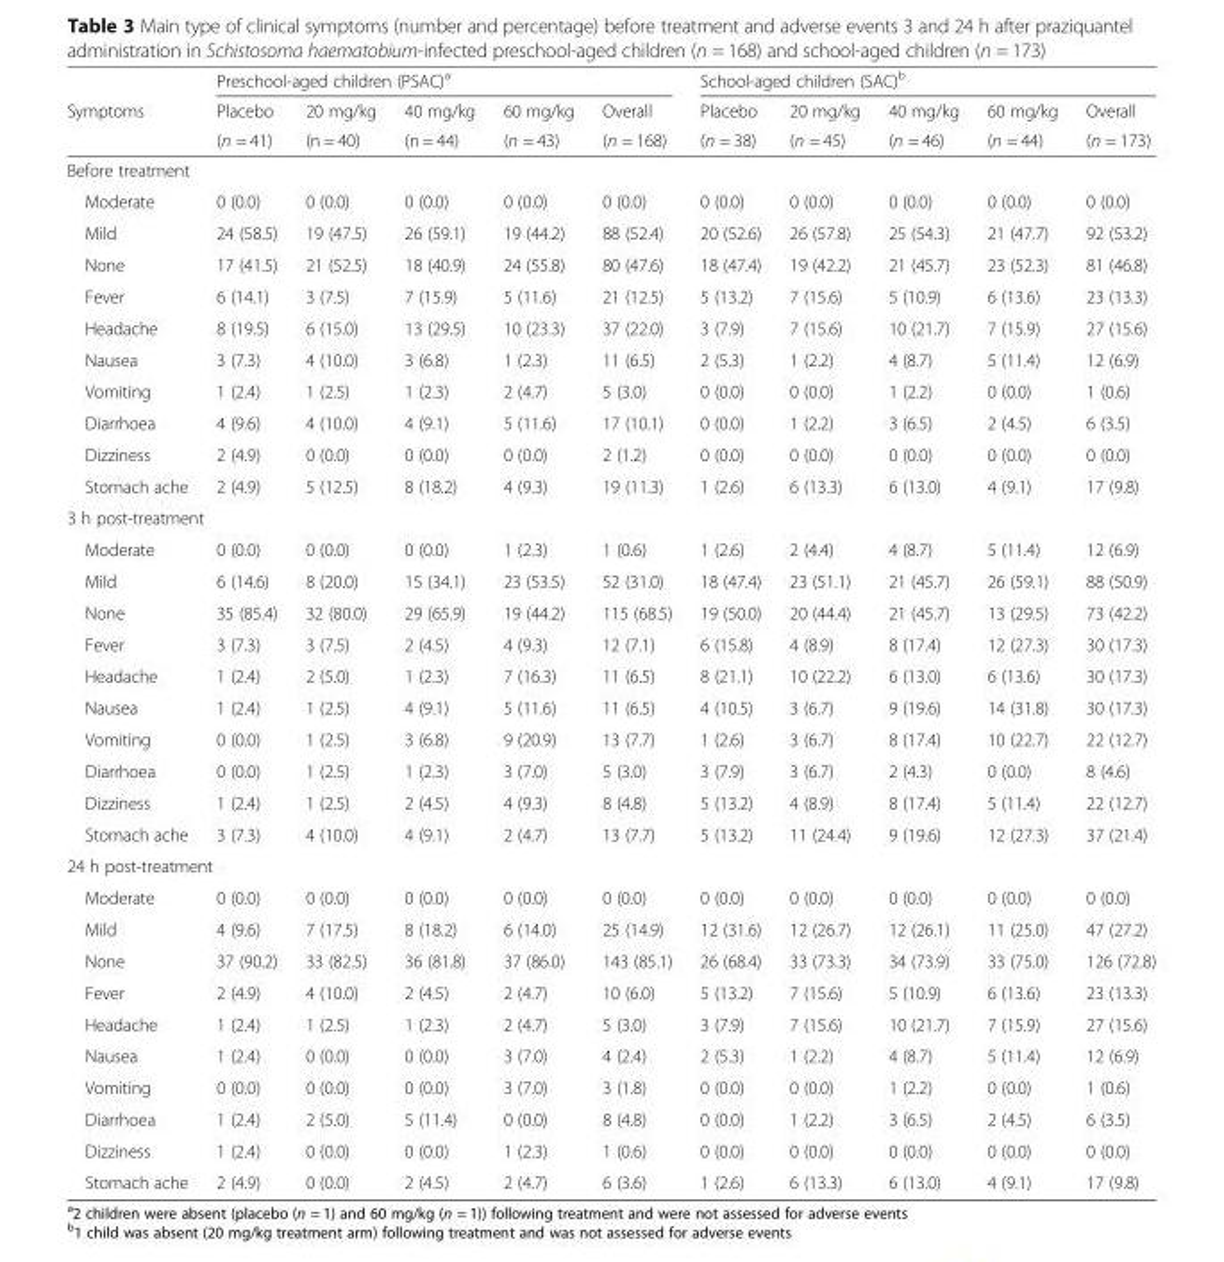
<table><thead><tr><td rowspan="3">Symptoms</td><td colspan="5">Preschool-aged children (PSAC)<sup>a</sup></td><td colspan="5">School-aged children (SAC)<sup>b</sup></td></tr><tr><td rowspan="2">Placebo (n = 41)</td><td rowspan="2">20 mg/kg (n = 40)</td><td rowspan="2">40 mg/kg (n = 44)</td><td rowspan="2">60 mg/kg (n = 43)</td><td rowspan="2">Overall (n = 168)</td><td rowspan="2">Placebo (n = 38)</td><td rowspan="2">20 mg/kg (n = 45)</td><td rowspan="2">40 mg/kg (n = 46)</td><td rowspan="2">60 mg/kg (n = 44)</td><td rowspan="2">Overall (n = 173)</td></tr><tr></tr></thead><tbody><tr><td colspan="11">Before treatment</td></tr><tr><td>Moderate</td><td>0 (0.0)</td><td>0 (0.0)</td><td>0 (0.0)</td><td>0 (0.0)</td><td>0 (0.0)</td><td>0 (0.0)</td><td>0 (0.0)</td><td>0 (0.0)</td><td>0 (0.0)</td><td>0 (0.0)</td></tr><tr><td>Mild</td><td>24 (58.5)</td><td>19 (47.5)</td><td>26 (59.1)</td><td>19 (44.2)</td><td>88 (52.4)</td><td>20 (52.6)</td><td>26 (57.8)</td><td>25 (54.3)</td><td>21 (47.7)</td><td>92 (53.2)</td></tr><tr><td>None</td><td>17 (41.5)</td><td>21 (52.5)</td><td>18 (40.9)</td><td>24 (55.8)</td><td>80 (47.6)</td><td>18 (47.4)</td><td>19 (42.2)</td><td>21 (45.7)</td><td>23 (52.3)</td><td>81 (46.8)</td></tr><tr><td>Fever</td><td>6 (14.1)</td><td>3 (7.5)</td><td>7 (15.9)</td><td>5 (11.6)</td><td>21 (12.5)</td><td>5 (13.2)</td><td>7 (15.6)</td><td>5 (10.9)</td><td>6 (13.6)</td><td>23 (13.3)</td></tr><tr><td>Headache</td><td>8 (19.5)</td><td>6 (15.0)</td><td>13 (29.5)</td><td>10 (23.3)</td><td>37 (22.0)</td><td>3 (7.9)</td><td>7 (15.6)</td><td>10 (21.7)</td><td>7 (15.9)</td><td>27 (15.6)</td></tr><tr><td>Nausea</td><td>3 (7.3)</td><td>4 (10.0)</td><td>3 (6.8)</td><td>1 (2.3)</td><td>11 (6.5)</td><td>2 (5.3)</td><td>1 (2.2)</td><td>4 (8.7)</td><td>5 (11.4)</td><td>12 (6.9)</td></tr><tr><td>Vomiting</td><td>1 (2.4)</td><td>1 (2.5)</td><td>1 (2.3)</td><td>2 (4.7)</td><td>5 (3.0)</td><td>0 (0.0)</td><td>0 (0.0)</td><td>1 (2.2)</td><td>0 (0.0)</td><td>1 (0.6)</td></tr><tr><td>Diarrhoea</td><td>4 (9.6)</td><td>4 (10.0)</td><td>4 (9.1)</td><td>5 (11.6)</td><td>17 (10.1)</td><td>0 (0.0)</td><td>1 (2.2)</td><td>3 (6.5)</td><td>2 (4.5)</td><td>6 (3.5)</td></tr><tr><td>Dizziness</td><td>2 (4.9)</td><td>0 (0.0)</td><td>0 (0.0)</td><td>0 (0.0)</td><td>2 (1.2)</td><td>0 (0.0)</td><td>0 (0.0)</td><td>0 (0.0)</td><td>0 (0.0)</td><td>0 (0.0)</td></tr><tr><td>Stomach ache</td><td>2 (4.9)</td><td>5 (12.5)</td><td>8 (18.2)</td><td>4 (9.3)</td><td>19 (11.3)</td><td>1 (2.6)</td><td>6 (13.3)</td><td>6 (13.0)</td><td>4 (9.1)</td><td>17 (9.8)</td></tr><tr><td colspan="11">3 h post-treatment</td></tr><tr><td>Moderate</td><td>0 (0.0)</td><td>0 (0.0)</td><td>0 (0.0)</td><td>1 (2.3)</td><td>1 (0.6)</td><td>1 (2.6)</td><td>2 (4.4)</td><td>4 (8.7)</td><td>5 (11.4)</td><td>12 (6.9)</td></tr><tr><td>Mild</td><td>6 (14.6)</td><td>8 (20.0)</td><td>15 (34.1)</td><td>23 (53.5)</td><td>52 (31.0)</td><td>18 (47.4)</td><td>23 (51.1)</td><td>21 (45.7)</td><td>26 (59.1)</td><td>88 (50.9)</td></tr><tr><td>None</td><td>35 (85.4)</td><td>32 (80.0)</td><td>29 (65.9)</td><td>19 (44.2)</td><td>115 (68.5)</td><td>19 (50.0)</td><td>20 (44.4)</td><td>21 (45.7)</td><td>13 (29.5)</td><td>73 (42.2)</td></tr><tr><td>Fever</td><td>3 (7.3)</td><td>3 (7.5)</td><td>2 (4.5)</td><td>4 (9.3)</td><td>12 (7.1)</td><td>6 (15.8)</td><td>4 (8.9)</td><td>8 (17.4)</td><td>12 (27.3)</td><td>30 (17.3)</td></tr><tr><td>Headache</td><td>1 (2.4)</td><td>2 (5.0)</td><td>1 (2.3)</td><td>7 (16.3)</td><td>11 (6.5)</td><td>8 (21.1)</td><td>10 (22.2)</td><td>6 (13.0)</td><td>6 (13.6)</td><td>30 (17.3)</td></tr><tr><td>Nausea</td><td>1 (2.4)</td><td>1 (2.5)</td><td>4 (9.1)</td><td>5 (11.6)</td><td>11 (6.5)</td><td>4 (10.5)</td><td>3 (6.7)</td><td>9 (19.6)</td><td>14 (31.8)</td><td>30 (17.3)</td></tr><tr><td>Vomiting</td><td>0 (0.0)</td><td>1 (2.5)</td><td>3 (6.8)</td><td>9 (20.9)</td><td>13 (7.7)</td><td>1 (2.6)</td><td>3 (6.7)</td><td>8 (17.4)</td><td>10 (22.7)</td><td>22 (12.7)</td></tr><tr><td>Diarrhoea</td><td>0 (0.0)</td><td>1 (2.5)</td><td>1 (2.3)</td><td>3 (7.0)</td><td>5 (3.0)</td><td>3 (7.9)</td><td>3 (6.7)</td><td>2 (4.3)</td><td>0 (0.0)</td><td>8 (4.6)</td></tr><tr><td>Dizziness</td><td>1 (2.4)</td><td>1 (2.5)</td><td>2 (4.5)</td><td>4 (9.3)</td><td>8 (4.8)</td><td>5 (13.2)</td><td>4 (8.9)</td><td>8 (17.4)</td><td>5 (11.4)</td><td>22 (12.7)</td></tr><tr><td>Stomach ache</td><td>3 (7.3)</td><td>4 (10.0)</td><td>4 (9.1)</td><td>2 (4.7)</td><td>13 (7.7)</td><td>5 (13.2)</td><td>11 (24.4)</td><td>9 (19.6)</td><td>12 (27.3)</td><td>37 (21.4)</td></tr><tr><td colspan="11">24 h post-treatment</td></tr><tr><td>Moderate</td><td>0 (0.0)</td><td>0 (0.0)</td><td>0 (0.0)</td><td>0 (0.0)</td><td>0 (0.0)</td><td>0 (0.0)</td><td>0 (0.0)</td><td>0 (0.0)</td><td>0 (0.0)</td><td>0 (0.0)</td></tr><tr><td>Mild</td><td>4 (9.6)</td><td>7 (17.5)</td><td>8 (18.2)</td><td>6 (14.0)</td><td>25 (14.9)</td><td>12 (31.6)</td><td>12 (26.7)</td><td>12 (26.1)</td><td>11 (25.0)</td><td>47 (27.2)</td></tr><tr><td>None</td><td>37 (90.2)</td><td>33 (82.5)</td><td>36 (81.8)</td><td>37 (86.0)</td><td>143 (85.1)</td><td>26 (68.4)</td><td>33 (73.3)</td><td>34 (73.9)</td><td>33 (75.0)</td><td>126 (72.8)</td></tr><tr><td>Fever</td><td>2 (4.9)</td><td>4 (10.0)</td><td>2 (4.5)</td><td>2 (4.7)</td><td>10 (6.0)</td><td>5 (13.2)</td><td>7 (15.6)</td><td>5 (10.9)</td><td>6 (13.6)</td><td>23 (13.3)</td></tr><tr><td>Headache</td><td>1 (2.4)</td><td>1 (2.5)</td><td>1 (2.3)</td><td>2 (4.7)</td><td>5 (3.0)</td><td>3 (7.9)</td><td>7 (15.6)</td><td>10 (21.7)</td><td>7 (15.9)</td><td>27 (15.6)</td></tr><tr><td>Nausea</td><td>1 (2.4)</td><td>0 (0.0)</td><td>0 (0.0)</td><td>3 (7.0)</td><td>4 (2.4)</td><td>2 (5.3)</td><td>1 (2.2)</td><td>4 (8.7)</td><td>5 (11.4)</td><td>12 (6.9)</td></tr><tr><td>Vomiting</td><td>0 (0.0)</td><td>0 (0.0)</td><td>0 (0.0)</td><td>3 (7.0)</td><td>3 (1.8)</td><td>0 (0.0)</td><td>0 (0.0)</td><td>1 (2.2)</td><td>0 (0.0)</td><td>1 (0.6)</td></tr><tr><td>Diarrhoea</td><td>1 (2.4)</td><td>2 (5.0)</td><td>5 (11.4)</td><td>0 (0.0)</td><td>8 (4.8)</td><td>0 (0.0)</td><td>1 (2.2)</td><td>3 (6.5)</td><td>2 (4.5)</td><td>6 (3.5)</td></tr><tr><td>Dizziness</td><td>1 (2.4)</td><td>0 (0.0)</td><td>0 (0.0)</td><td>1 (2.3)</td><td>1 (0.6)</td><td>0 (0.0)</td><td>0 (0.0)</td><td>0 (0.0)</td><td>0 (0.0)</td><td>0 (0.0)</td></tr><tr><td>Stomach ache</td><td>2 (4.9)</td><td>0 (0.0)</td><td>2 (4.5)</td><td>2 (4.7)</td><td>6 (3.6)</td><td>1 (2.6)</td><td>6 (13.3)</td><td>6 (13.0)</td><td>4 (9.1)</td><td>17 (9.8)</td></tr></tbody></table>